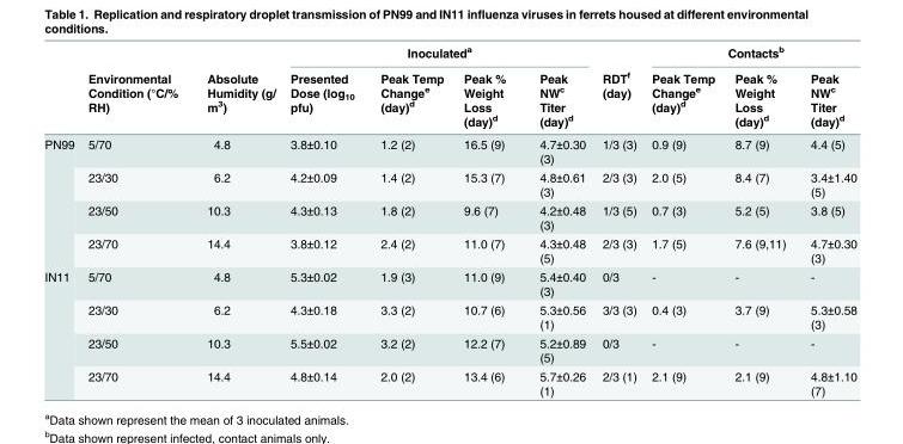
<table><thead><tr><td rowspan="2"></td><td rowspan="2">Environmental Condition (°C/% RH)</td><td rowspan="2">Absolute Humidity (g/ m<sup>3</sup>)</td><td colspan="4">Inoculated<sup>a</sup></td><td rowspan="2">RDT<sup>f</sup> (day)</td><td colspan="3">Contacts<sup>b</sup></td></tr><tr><td>Presented Dose (log<sub>10</sub> pfu)</td><td>Peak Temp Change<sup>e</sup> (day)<sup>d</sup></td><td>Peak % Weight Loss (day)<sup>d</sup></td><td>Peak NW<sup>c</sup> Titer (day)<sup>d</sup></td><td>Peak Temp Change<sup>e</sup> (day)<sup>d</sup></td><td>Peak % Weight Loss (day)<sup>d</sup></td><td>Peak NW<sup>c</sup> Titer (day)<sup>d</sup></td></tr></thead><tbody><tr><td rowspan="4">PN99</td><td>5/70</td><td>4.8</td><td>3.8±0.10</td><td>1.2 (2)</td><td>16.5 (9)</td><td>4.7±0.30 (3)</td><td>1/3 (3)</td><td>0.9 (9)</td><td>8.7 (9)</td><td>4.4 (5)</td></tr><tr><td>23/30</td><td>6.2</td><td>4.2±0.09</td><td>1.4 (2)</td><td>15.3 (7)</td><td>4.8±0.61 (3)</td><td>2/3 (3)</td><td>2.0 (5)</td><td>8.4 (7)</td><td>3.4±1.40 (5)</td></tr><tr><td>23/50</td><td>10.3</td><td>4.3±0.13</td><td>1.8 (2)</td><td>9.6 (7)</td><td>4.2±0.48 (3)</td><td>1/3 (5)</td><td>0.7 (3)</td><td>5.2 (5)</td><td>3.8 (5)</td></tr><tr><td>23/70</td><td>14.4</td><td>3.8±0.12</td><td>2.4 (2)</td><td>11.0 (7)</td><td>4.3±0.48 (5)</td><td>2/3 (3)</td><td>1.7 (5)</td><td>7.6 (9,11)</td><td>4.7±0.30 (3)</td></tr><tr><td rowspan="4">IN11</td><td>5/70</td><td>4.8</td><td>5.3±0.02</td><td>1.9 (3)</td><td>11.0 (9)</td><td>5.4±0.40 (3)</td><td>0/3</td><td>-</td><td>-</td><td>-</td></tr><tr><td>23/30</td><td>6.2</td><td>4.3±0.18</td><td>3.3 (2)</td><td>10.7 (6)</td><td>5.3±0.56 (1)</td><td>3/3 (3)</td><td>0.4 (3)</td><td>3.7 (9)</td><td>5.3±0.58 (3)</td></tr><tr><td>23/50</td><td>10.3</td><td>5.5±0.02</td><td>3.2 (2)</td><td>12.2 (7)</td><td>5.2±0.89 (5)</td><td>0/3</td><td>-</td><td>-</td><td>-</td></tr><tr><td>23/70</td><td>14.4</td><td>4.8±0.14</td><td>2.0 (2)</td><td>13.4 (6)</td><td>5.7±0.26 (1)</td><td>2/3 (1)</td><td>2.1 (9)</td><td>2.1 (9)</td><td>4.8±1.10 (7)</td></tr></tbody></table>